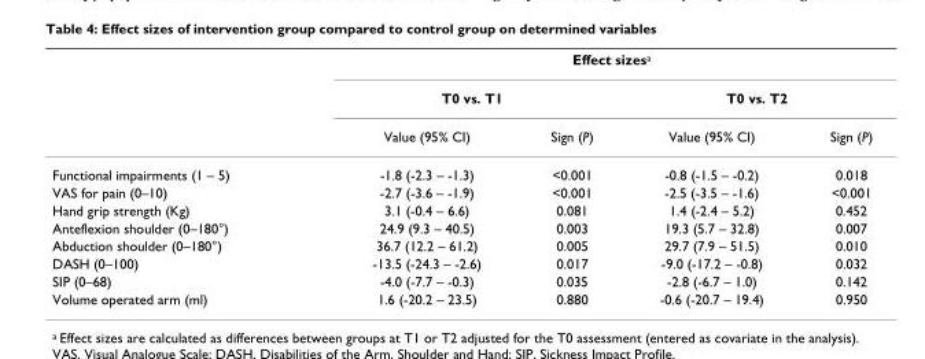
<table><thead><tr><td rowspan="3"></td><td colspan="4">Effect sizes<sup>a</sup></td></tr><tr><td colspan="2">T0 vs. T1</td><td colspan="2">T0 vs. T2</td></tr><tr><td>Value (95% CI)</td><td>Sign (P)</td><td>Value (95% CI)</td><td>Sign (P)</td></tr></thead><tbody><tr><td>Functional impairments (1 – 5)</td><td>-1.8 (-2.3 – -1.3)</td><td>&lt;0.001</td><td>-0.8 (-1.5 – -0.2)</td><td>0.018</td></tr><tr><td>VAS for pain (0–10)</td><td>-2.7 (-3.6 – -1.9)</td><td>&lt;0.001</td><td>-2.5 (-3.5 – -1.6)</td><td>&lt;0.001</td></tr><tr><td>Hand grip strength (Kg)</td><td>3.1 (-0.4 – 6.6)</td><td>0.081</td><td>1.4 (-2.4 – 5.2)</td><td>0.452</td></tr><tr><td>Anteflexion shoulder (0–180°)</td><td>24.9 (9.3 – 40.5)</td><td>0.003</td><td>19.3 (5.7 – 32.8)</td><td>0.007</td></tr><tr><td>Abduction shoulder (0–180°)</td><td>36.7 (12.2 – 61.2)</td><td>0.005</td><td>29.7 (7.9 – 51.5)</td><td>0.010</td></tr><tr><td>DASH (0–100)</td><td>-13.5 (-24.3 – -2.6)</td><td>0.017</td><td>-9.0 (-17.2 – -0.8)</td><td>0.032</td></tr><tr><td>SIP (0–68)</td><td>-4.0 (-7.7 – -0.3)</td><td>0.035</td><td>-2.8 (-6.7 – 1.0)</td><td>0.142</td></tr><tr><td>Volume operated arm (ml)</td><td>1.6 (-20.2 – 23.5)</td><td>0.880</td><td>-0.6 (-20.7 – 19.4)</td><td>0.950</td></tr></tbody></table>